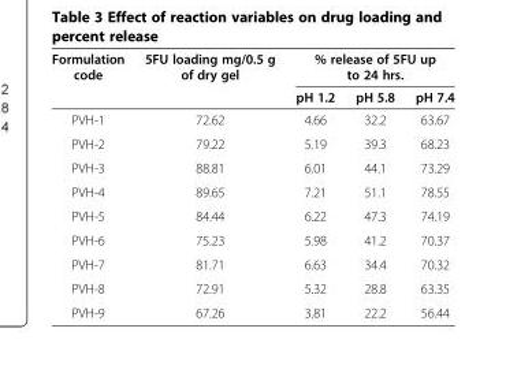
<table><thead><tr><td rowspan="2">Formulation code</td><td rowspan="2">5FU loading mg/0.5 g of dry gel</td><td colspan="3">% release of 5FU up to 24 hrs.</td></tr><tr><td>pH 1.2</td><td>pH 5.8</td><td>pH 7.4</td></tr></thead><tbody><tr><td>PVH-1</td><td>72.62</td><td>4.66</td><td>32.2</td><td>63.67</td></tr><tr><td>PVH-2</td><td>79.22</td><td>5.19</td><td>39.3</td><td>68.23</td></tr><tr><td>PVH-3</td><td>88.81</td><td>6.01</td><td>44.1</td><td>73.29</td></tr><tr><td>PVH-4</td><td>89.65</td><td>7.21</td><td>51.1</td><td>78.55</td></tr><tr><td>PVH-5</td><td>84.44</td><td>6.22</td><td>47.3</td><td>74.19</td></tr><tr><td>PVH-6</td><td>75.23</td><td>5.98</td><td>41.2</td><td>70.37</td></tr><tr><td>PVH-7</td><td>81.71</td><td>6.63</td><td>34.4</td><td>70.32</td></tr><tr><td>PVH-8</td><td>72.91</td><td>5.32</td><td>28.8</td><td>63.35</td></tr><tr><td>PVH-9</td><td>67.26</td><td>3.81</td><td>22.2</td><td>56.44</td></tr></tbody></table>